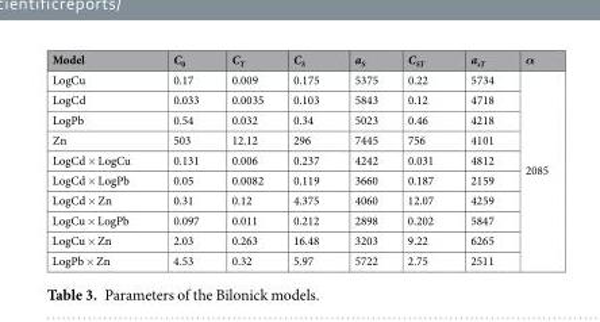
<table><thead><tr><td>Model</td><td>C<sub>0</sub></td><td>C<sub>T</sub></td><td>C<sub>S</sub></td><td>a<sub>S</sub></td><td>C<sub>ST</sub></td><td>a<sub>sT</sub></td><td>α</td></tr></thead><tbody><tr><td>LogCu</td><td>0.17</td><td>0.009</td><td>0.175</td><td>5375</td><td>0.22</td><td>5734</td><td rowspan="10">2085</td></tr><tr><td>LogCd</td><td>0.033</td><td>0.0035</td><td>0.103</td><td>5843</td><td>0.12</td><td>4718</td></tr><tr><td>LogPb</td><td>0.54</td><td>0.032</td><td>0.34</td><td>5023</td><td>0.46</td><td>4218</td></tr><tr><td>Zn</td><td>503</td><td>12.12</td><td>296</td><td>7445</td><td>756</td><td>4101</td></tr><tr><td>LogCd × LogCu</td><td>0.131</td><td>0.006</td><td>0.237</td><td>4242</td><td>0.031</td><td>4812</td></tr><tr><td>LogCd × LogPb</td><td>0.05</td><td>0.0082</td><td>0.119</td><td>3660</td><td>0.187</td><td>2159</td></tr><tr><td>LogCd × Zn</td><td>0.31</td><td>0.12</td><td>4.375</td><td>4060</td><td>12.07</td><td>4259</td></tr><tr><td>LogCu × LogPb</td><td>0.097</td><td>0.011</td><td>0.212</td><td>2898</td><td>0.202</td><td>5847</td></tr><tr><td>LogCu × Zn</td><td>2.03</td><td>0.263</td><td>16.48</td><td>3203</td><td>9.22</td><td>6265</td></tr><tr><td>LogPb × Zn</td><td>4.53</td><td>0.32</td><td>5.97</td><td>5722</td><td>2.75</td><td>2511</td></tr></tbody></table>